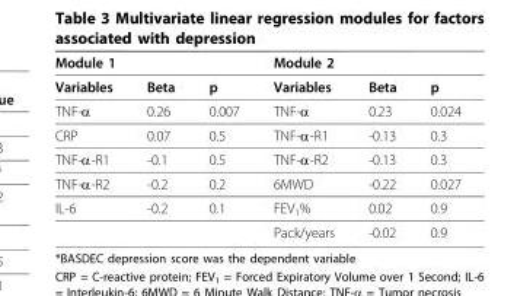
<table><thead><tr><td colspan="3">Module 1</td><td colspan="3">Module 2</td></tr><tr><td>Variables</td><td>Beta</td><td>p</td><td>Variables</td><td>Beta</td><td>p</td></tr></thead><tbody><tr><td>TNF-α</td><td>0.26</td><td>0.007</td><td>TNF-α</td><td>0.23</td><td>0.024</td></tr><tr><td>CRP</td><td>0.07</td><td>0.5</td><td>TNF-α-R1</td><td>-0.13</td><td>0.3</td></tr><tr><td>TNF-α-R1</td><td>-0.1</td><td>0.5</td><td>TNF-α-R2</td><td>-0.13</td><td>0.3</td></tr><tr><td>TNF-α-R2</td><td>-0.2</td><td>0.2</td><td>6MWD</td><td>-0.22</td><td>0.027</td></tr><tr><td rowspan="2">IL-6</td><td>-0.2</td><td>0.1</td><td>FEV<sub>1</sub>%</td><td>0.02</td><td>0.9</td></tr><tr><td></td><td></td><td>Pack/years</td><td>-0.02</td><td>0.9</td></tr></tbody></table>